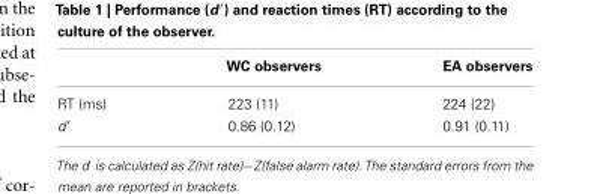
<table><thead><tr><td></td><td>WC observers</td><td>EA observers</td></tr></thead><tbody><tr><td>RT (ms)</td><td>223 (11)</td><td>224 (22)</td></tr><tr><td>d ′</td><td>0.86 (0.12)</td><td>0.91 (0.11)</td></tr></tbody></table>